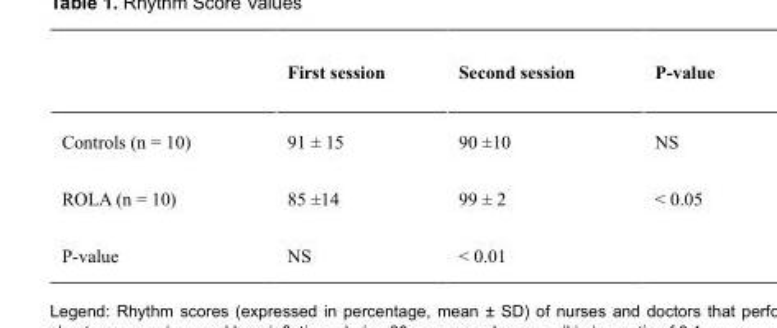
<table><thead><tr><td></td><td>First session</td><td>Second session</td><td>P-value</td></tr></thead><tbody><tr><td>Controls (n = 10)</td><td>91 ± 15</td><td>90 ±10</td><td>NS</td></tr><tr><td>ROLA (n = 10)</td><td>85 ±14</td><td>99 ± 2</td><td>&lt; 0.05</td></tr><tr><td>P-value</td><td>NS</td><td>&lt; 0.01</td><td></td></tr></tbody></table>